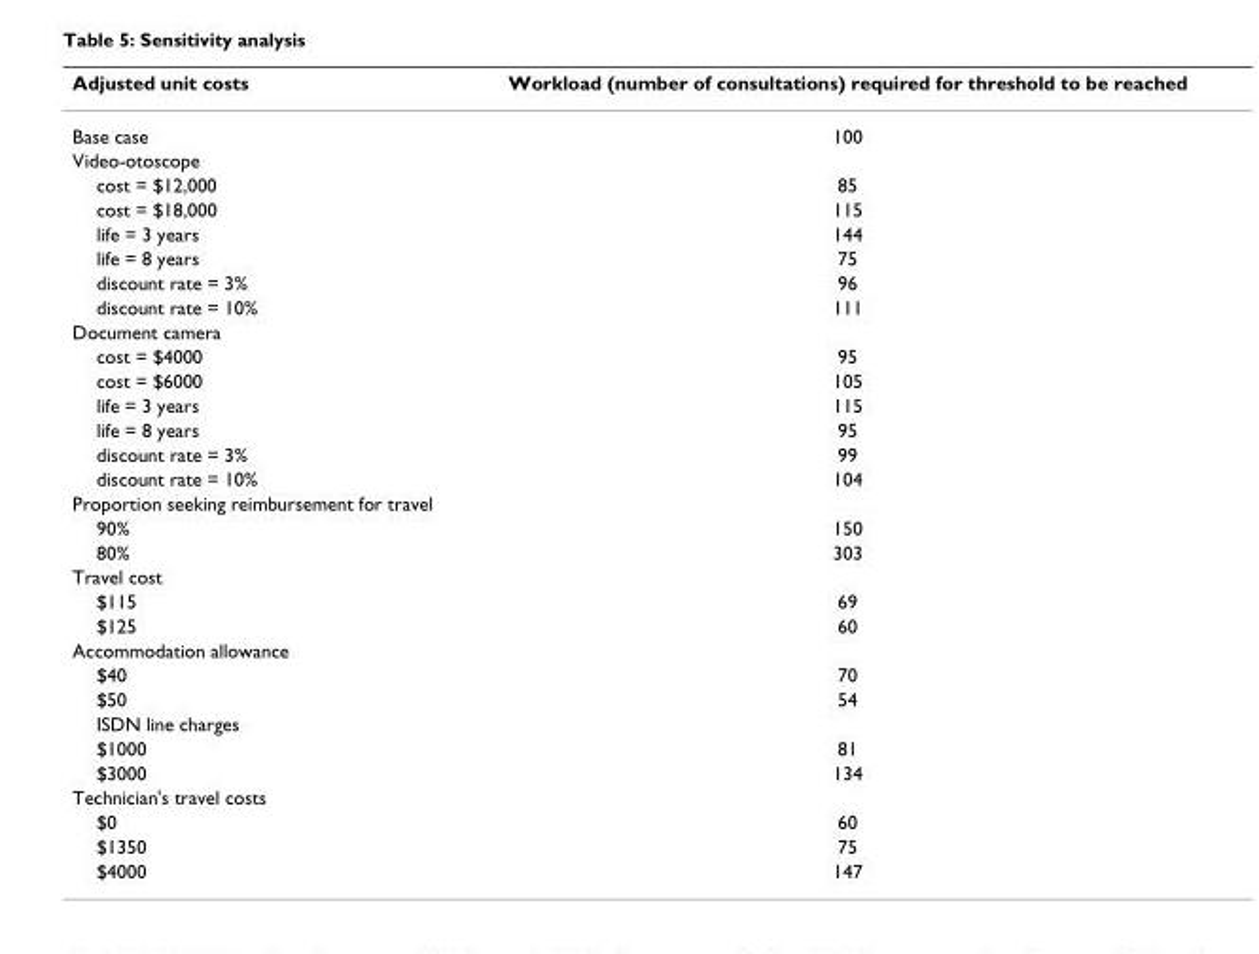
<table><thead><tr><td>Adjusted unit costs</td><td>Workload (number of consultations) required for threshold to be reached</td></tr></thead><tbody><tr><td>Base case</td><td>100</td></tr><tr><td colspan="2">Video-otoscope</td></tr><tr><td>cost = $12,000</td><td>85</td></tr><tr><td>cost = $18,000</td><td>115</td></tr><tr><td>life = 3 years</td><td>144</td></tr><tr><td>life = 8 years</td><td>75</td></tr><tr><td>discount rate = 3%</td><td>96</td></tr><tr><td>discount rate = 10%</td><td>111</td></tr><tr><td colspan="2">Document camera</td></tr><tr><td>cost = $4000</td><td>95</td></tr><tr><td>cost = $6000</td><td>105</td></tr><tr><td>life = 3 years</td><td>115</td></tr><tr><td>life = 8 years</td><td>95</td></tr><tr><td>discount rate = 3%</td><td>99</td></tr><tr><td>discount rate = 10%</td><td>104</td></tr><tr><td colspan="2">Proportion seeking reimbursement for travel</td></tr><tr><td>90%</td><td>150</td></tr><tr><td>80%</td><td>303</td></tr><tr><td colspan="2">Travel cost</td></tr><tr><td>$115</td><td>69</td></tr><tr><td>$125</td><td>60</td></tr><tr><td colspan="2">Accommodation allowance</td></tr><tr><td>$40</td><td>70</td></tr><tr><td>$50</td><td>54</td></tr><tr><td colspan="2">ISDN line charges</td></tr><tr><td>$1000</td><td>81</td></tr><tr><td>$3000</td><td>134</td></tr><tr><td colspan="2">Technician&#x27;s travel costs</td></tr><tr><td>$0</td><td>60</td></tr><tr><td>$1350</td><td>75</td></tr><tr><td>$4000</td><td>147</td></tr></tbody></table>